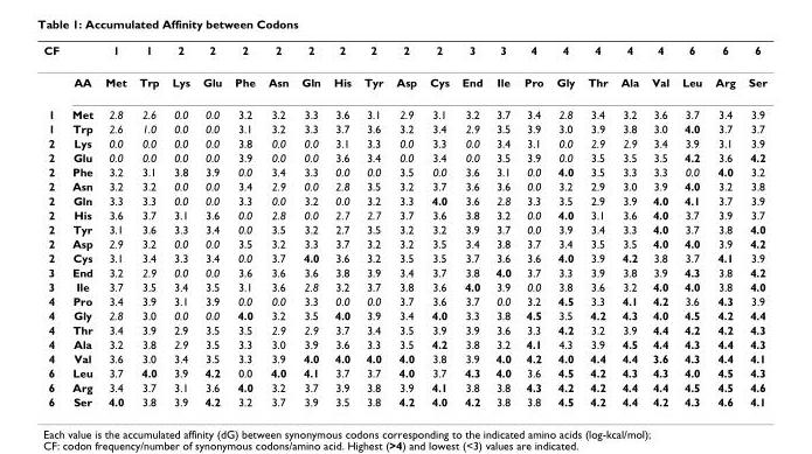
<table><thead><tr><td>CF</td><td></td><td>1</td><td>1</td><td>2</td><td>2</td><td>2</td><td>2</td><td>2</td><td>2</td><td>2</td><td>2</td><td>2</td><td>3</td><td>3</td><td>4</td><td>4</td><td>4</td><td>4</td><td>4</td><td>6</td><td>6</td><td>6</td></tr></thead><tbody><tr><td></td><td>AA</td><td>Met</td><td>Trp</td><td>Lys</td><td>Glu</td><td>Phe</td><td>Asn</td><td>Gln</td><td>His</td><td>Tyr</td><td>Asp</td><td>Cys</td><td>End</td><td>Ile</td><td>Pro</td><td>Gly</td><td>Thr</td><td>Ala</td><td>Val</td><td>Leu</td><td>Arg</td><td>Ser</td></tr><tr><td>1</td><td>Met</td><td>2.8</td><td>2.6</td><td>0.0</td><td>0.0</td><td>3.2</td><td>3.2</td><td>3.3</td><td>3.6</td><td>3.1</td><td>2.9</td><td>3.1</td><td>3.2</td><td>3.7</td><td>3.4</td><td>2.8</td><td>3.4</td><td>3.2</td><td>3.6</td><td>3.7</td><td>3.4</td><td>3.9</td></tr><tr><td>1</td><td>Trp</td><td>2.6</td><td>1.0</td><td>0.0</td><td>0.0</td><td>3.1</td><td>3.2</td><td>3.3</td><td>3.7</td><td>3.6</td><td>3.2</td><td>3.4</td><td>2.9</td><td>3.5</td><td>3.9</td><td>3.0</td><td>3.9</td><td>3.8</td><td>3.0</td><td>4.0</td><td>3.7</td><td>3.7</td></tr><tr><td>2</td><td>Lys</td><td>0.0</td><td>0.0</td><td>0.0</td><td>0.0</td><td>3.8</td><td>0.0</td><td>0.0</td><td>3.1</td><td>3.3</td><td>0.0</td><td>3.3</td><td>0.0</td><td>3.4</td><td>3.1</td><td>0.0</td><td>2.9</td><td>2.9</td><td>3.4</td><td>3.9</td><td>3.1</td><td>3.9</td></tr><tr><td>2</td><td>Glu</td><td>0.0</td><td>0.0</td><td>0.0</td><td>0.0</td><td>3.9</td><td>0.0</td><td>0.0</td><td>3.6</td><td>3.4</td><td>0.0</td><td>3.4</td><td>0.0</td><td>3.5</td><td>3.9</td><td>0.0</td><td>3.5</td><td>3.5</td><td>3.5</td><td>4.2</td><td>3.6</td><td>4.2</td></tr><tr><td>2</td><td>Phe</td><td>3.2</td><td>3.1</td><td>3.8</td><td>3.9</td><td>0.0</td><td>3.4</td><td>3.3</td><td>0.0</td><td>0.0</td><td>3.5</td><td>0.0</td><td>3.6</td><td>3.1</td><td>0.0</td><td>4.0</td><td>3.5</td><td>3.3</td><td>3.3</td><td>0.0</td><td>4.0</td><td>3.2</td></tr><tr><td>2</td><td>Asn</td><td>3.2</td><td>3.2</td><td>0.0</td><td>0.0</td><td>3.4</td><td>2.9</td><td>0.0</td><td>2.8</td><td>3.5</td><td>3.2</td><td>3.7</td><td>3.6</td><td>3.6</td><td>0.0</td><td>3.2</td><td>2.9</td><td>3.0</td><td>3.9</td><td>4.0</td><td>3.2</td><td>3.8</td></tr><tr><td>2</td><td>Gln</td><td>3.3</td><td>3.3</td><td>0.0</td><td>0.0</td><td>3.3</td><td>0.0</td><td>3.2</td><td>0.0</td><td>3.2</td><td>3.3</td><td>4.0</td><td>3.6</td><td>2.8</td><td>3.3</td><td>3.5</td><td>2.9</td><td>3.9</td><td>4.0</td><td>4.1</td><td>3.7</td><td>3.9</td></tr><tr><td>2</td><td>His</td><td>3.6</td><td>3.7</td><td>3.1</td><td>3.6</td><td>0.0</td><td>2.8</td><td>0.0</td><td>2.7</td><td>2.7</td><td>3.7</td><td>3.6</td><td>3.8</td><td>3.2</td><td>0.0</td><td>4.0</td><td>3.1</td><td>3.6</td><td>4.0</td><td>3.7</td><td>3.9</td><td>3.7</td></tr><tr><td>2</td><td>Tyr</td><td>3.1</td><td>3.6</td><td>3.3</td><td>3.4</td><td>0.0</td><td>3.5</td><td>3.2</td><td>2.7</td><td>3.5</td><td>3.2</td><td>3.2</td><td>3.9</td><td>3.7</td><td>0.0</td><td>3.9</td><td>3.4</td><td>3.3</td><td>4.0</td><td>3.7</td><td>3.8</td><td>4.0</td></tr><tr><td>2</td><td>Asp</td><td>2.9</td><td>3.2</td><td>0.0</td><td>0.0</td><td>3.5</td><td>3.2</td><td>3.3</td><td>3.7</td><td>3.2</td><td>3.2</td><td>3.5</td><td>3.4</td><td>3.8</td><td>3.7</td><td>3.4</td><td>3.5</td><td>3.5</td><td>4.0</td><td>4.0</td><td>3.9</td><td>4.2</td></tr><tr><td>2</td><td>Cys</td><td>3.1</td><td>3.4</td><td>3.3</td><td>3.4</td><td>0.0</td><td>3.7</td><td>4.0</td><td>3.6</td><td>3.2</td><td>3.5</td><td>3.5</td><td>3.7</td><td>3.6</td><td>3.6</td><td>4.0</td><td>3.9</td><td>4.2</td><td>3.8</td><td>3.7</td><td>4.1</td><td>3.9</td></tr><tr><td>3</td><td>End</td><td>3.2</td><td>2.9</td><td>0.0</td><td>0.0</td><td>3.6</td><td>3.6</td><td>3.6</td><td>3.8</td><td>3.9</td><td>3.4</td><td>3.7</td><td>3.8</td><td>4.0</td><td>3.7</td><td>3.3</td><td>3.9</td><td>3.8</td><td>3.9</td><td>4.3</td><td>3.8</td><td>4.2</td></tr><tr><td>3</td><td>Ile</td><td>3.7</td><td>3.5</td><td>3.4</td><td>3.5</td><td>3.1</td><td>3.6</td><td>2.8</td><td>3.2</td><td>3.7</td><td>3.8</td><td>3.6</td><td>4.0</td><td>3.9</td><td>0.0</td><td>3.8</td><td>3.6</td><td>3.2</td><td>4.0</td><td>4.0</td><td>3.8</td><td>4.0</td></tr><tr><td>4</td><td>Pro</td><td>3.4</td><td>3.9</td><td>3.1</td><td>3.9</td><td>0.0</td><td>0.0</td><td>3.3</td><td>0.0</td><td>0.0</td><td>3.7</td><td>3.6</td><td>3.7</td><td>0.0</td><td>3.2</td><td>4.5</td><td>3.3</td><td>4.1</td><td>4.2</td><td>3.6</td><td>4.3</td><td>3.9</td></tr><tr><td>4</td><td>Gly</td><td>2.8</td><td>3.0</td><td>0.0</td><td>0.0</td><td>4.0</td><td>3.2</td><td>3.5</td><td>4.0</td><td>3.9</td><td>3.4</td><td>4.0</td><td>3.3</td><td>3.8</td><td>4.5</td><td>3.5</td><td>4.2</td><td>4.3</td><td>4.0</td><td>4.5</td><td>4.2</td><td>4.4</td></tr><tr><td>4</td><td>Thr</td><td>3.4</td><td>3.9</td><td>2.9</td><td>3.5</td><td>3.5</td><td>2.9</td><td>2.9</td><td>3.7</td><td>3.4</td><td>3.5</td><td>3.9</td><td>3.9</td><td>3.6</td><td>3.3</td><td>4.2</td><td>3.2</td><td>3.9</td><td>4.4</td><td>4.2</td><td>4.2</td><td>4.3</td></tr><tr><td>4</td><td>Ala</td><td>3.2</td><td>3.8</td><td>2.9</td><td>3.5</td><td>3.3</td><td>3.0</td><td>3.9</td><td>3.6</td><td>3.3</td><td>3.5</td><td>4.2</td><td>3.8</td><td>3.2</td><td>4.1</td><td>4.3</td><td>3.9</td><td>4.5</td><td>4.4</td><td>4.3</td><td>4.4</td><td>4.3</td></tr><tr><td>4</td><td>Val</td><td>3.6</td><td>3.0</td><td>3.4</td><td>3.5</td><td>3.3</td><td>3.9</td><td>4.0</td><td>4.0</td><td>4.0</td><td>4.0</td><td>3.8</td><td>3.9</td><td>4.0</td><td>4.2</td><td>4.0</td><td>4.4</td><td>4.4</td><td>3.6</td><td>4.3</td><td>4.4</td><td>4.1</td></tr><tr><td>6</td><td>Leu</td><td>3.7</td><td>4.0</td><td>3.9</td><td>4.2</td><td>0.0</td><td>4.0</td><td>4.1</td><td>3.7</td><td>3.7</td><td>4.0</td><td>3.7</td><td>4.3</td><td>4.0</td><td>3.6</td><td>4.5</td><td>4.2</td><td>4.3</td><td>4.3</td><td>4.0</td><td>4.5</td><td>4.3</td></tr><tr><td>6</td><td>Arg</td><td>3.4</td><td>3.7</td><td>3.1</td><td>3.6</td><td>4.0</td><td>3.2</td><td>3.7</td><td>3.9</td><td>3.8</td><td>3.9</td><td>4.1</td><td>3.8</td><td>3.8</td><td>4.3</td><td>4.2</td><td>4.2</td><td>4.4</td><td>4.4</td><td>4.5</td><td>4.5</td><td>4.6</td></tr><tr><td>6</td><td>Ser</td><td>4.0</td><td>3.8</td><td>3.9</td><td>4.2</td><td>3.2</td><td>3.7</td><td>3.9</td><td>3.5</td><td>3.8</td><td>4.2</td><td>4.0</td><td>4.2</td><td>3.8</td><td>3.8</td><td>4.5</td><td>4.2</td><td>4.4</td><td>4.2</td><td>4.3</td><td>4.6</td><td>4.1</td></tr></tbody></table>